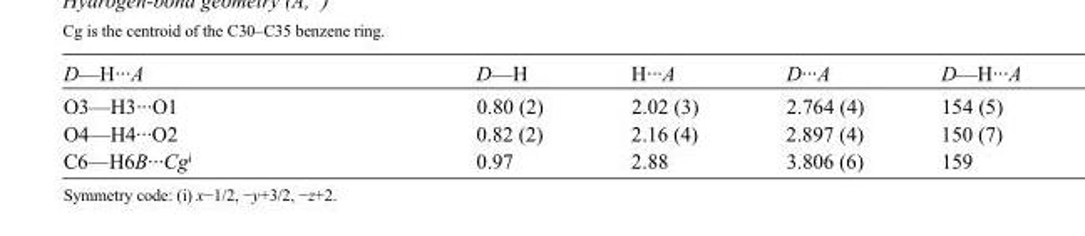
<table><tbody><tr><td>D—H···A</td><td>D—H</td><td>H···A</td><td>D···A</td><td>D—H···A</td></tr><tr><td>O3—H3···O1</td><td>0.80 (2)</td><td>2.02 (3)</td><td>2.764 (4)</td><td>154 (5)</td></tr><tr><td>O4—H4···O2</td><td>0.82 (2)</td><td>2.16 (4)</td><td>2.897 (4)</td><td>150 (7)</td></tr><tr><td>C6—H6B···Cg<sup>i</sup></td><td>0.97</td><td>2.88</td><td>3.806 (6)</td><td>159</td></tr></tbody></table>